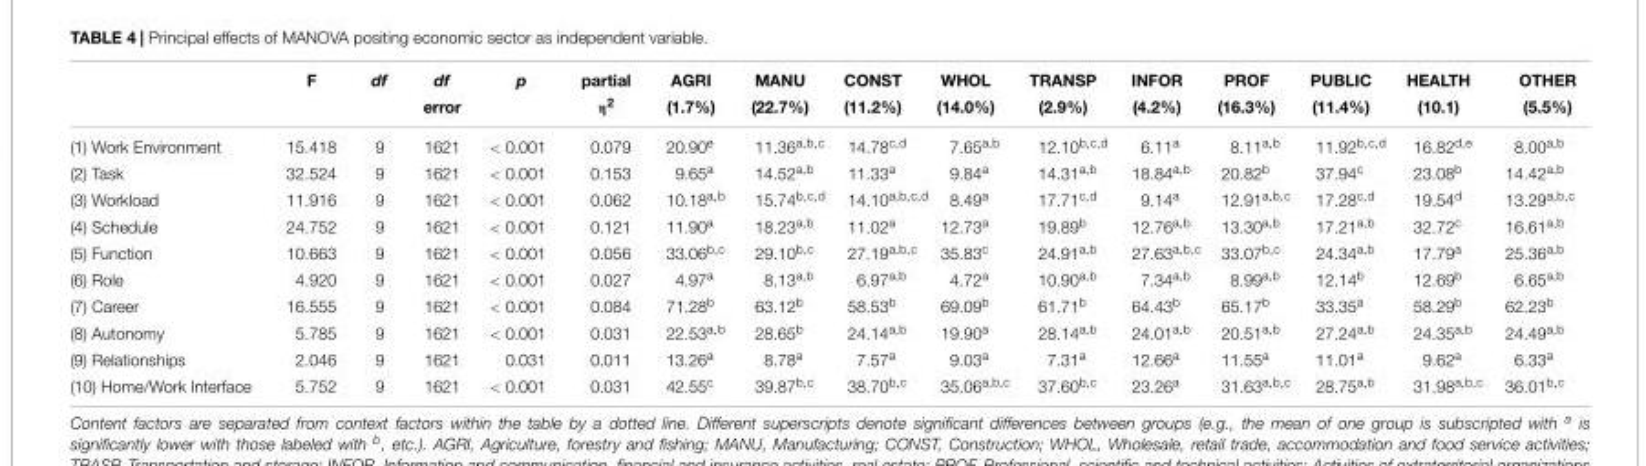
<table><thead><tr><td rowspan="2"></td><td rowspan="2">F</td><td rowspan="2">df</td><td rowspan="2">df error</td><td rowspan="2">p</td><td rowspan="2">partial η<sup>2</sup></td><td rowspan="2">AGRI (1.7%)</td><td rowspan="2">MANU (22.7%)</td><td rowspan="2">CONST (11.2%)</td><td rowspan="2">WHOL (14.0%)</td><td rowspan="2">TRANSP (2.9%)</td><td rowspan="2">INFOR (4.2%)</td><td rowspan="2">PROF (16.3%)</td><td rowspan="2">PUBLIC (11.4%)</td><td rowspan="2">HEALTH (10.1)</td><td rowspan="2">OTHER (5.5%)</td></tr><tr></tr></thead><tbody><tr><td>(1) Work Environment</td><td>15.418</td><td>9</td><td>1621</td><td>&lt; 0.001</td><td>0.079</td><td>20.90<sup>e</sup></td><td>11.36<sup>a,b,c</sup></td><td>14.78<sup>c,d</sup></td><td>7.65<sup>a,b</sup></td><td>12.10<sup>b,c,d</sup></td><td>6.11<sup>a</sup></td><td>8.11<sup>a,b</sup></td><td>11.92<sup>b,c,d</sup></td><td>16.82<sup>d,e</sup></td><td>8.00<sup>a,b</sup></td></tr><tr><td>(2) Task</td><td>32.524</td><td>9</td><td>1621</td><td>&lt; 0.001</td><td>0.153</td><td>9.65<sup>a</sup></td><td>14.52<sup>a,b</sup></td><td>11.33<sup>a</sup></td><td>9.84<sup>a</sup></td><td>14.31<sup>a,b</sup></td><td>18.84<sup>a,b</sup></td><td>20.82<sup>b</sup></td><td>37.94<sup>c</sup></td><td>23.08<sup>b</sup></td><td>14.42<sup>a,b</sup></td></tr><tr><td>(3) Workload</td><td>11.916</td><td>9</td><td>1621</td><td>&lt; 0.001</td><td>0.062</td><td>10.18<sup>a,b</sup></td><td>15.74<sup>b,c,d</sup></td><td>14.10<sup>a,b,c,d</sup></td><td>8.49<sup>a</sup></td><td>17.71<sup>c,d</sup></td><td>9.14<sup>a</sup></td><td>12.91<sup>a,b,c</sup></td><td>17.28<sup>c,d</sup></td><td>19.54<sup>d</sup></td><td>13.29<sup>a,b,c</sup></td></tr><tr><td>(4) Schedule</td><td>24.752</td><td>9</td><td>1621</td><td>&lt; 0.001</td><td>0.121</td><td>11.90<sup>a</sup></td><td>18.23<sup>a,b</sup></td><td>11.02<sup>a</sup></td><td>12.73<sup>a</sup></td><td>19.89<sup>b</sup></td><td>12.76<sup>a,b</sup></td><td>13.30<sup>a,b</sup></td><td>17.21<sup>a,b</sup></td><td>32.72<sup>c</sup></td><td>16.61<sup>a,b</sup></td></tr><tr><td>(5) Function</td><td>10.663</td><td>9</td><td>1621</td><td>&lt; 0.001</td><td>0.056</td><td>33.06<sup>b,c</sup></td><td>29.10<sup>b,c</sup></td><td>27.19<sup>a,b,c</sup></td><td>35.83<sup>c</sup></td><td>24.91<sup>a,b</sup></td><td>27.63<sup>a,b,c</sup></td><td>33.07<sup>b,c</sup></td><td>24.34<sup>a,b</sup></td><td>17.79<sup>a</sup></td><td>25.36<sup>a,b</sup></td></tr><tr><td>(6) Role</td><td>4.920</td><td>9</td><td>1621</td><td>&lt; 0.001</td><td>0.027</td><td>4.97<sup>a</sup></td><td>8.13<sup>a,b</sup></td><td>6.97<sup>a,b</sup></td><td>4.72<sup>a</sup></td><td>10.90<sup>a,b</sup></td><td>7.34<sup>a,b</sup></td><td>8.99<sup>a,b</sup></td><td>12.14<sup>b</sup></td><td>12.69<sup>b</sup></td><td>6.65<sup>a,b</sup></td></tr><tr><td>(7) Career</td><td>16.555</td><td>9</td><td>1621</td><td>&lt; 0.001</td><td>0.084</td><td>71.28<sup>b</sup></td><td>63.12<sup>b</sup></td><td>58.53<sup>b</sup></td><td>69.09<sup>b</sup></td><td>61.71<sup>b</sup></td><td>64.43<sup>b</sup></td><td>65.17<sup>b</sup></td><td>33.35<sup>a</sup></td><td>58.29<sup>b</sup></td><td>62.23<sup>b</sup></td></tr><tr><td>(8) Autonomy</td><td>5.785</td><td>9</td><td>1621</td><td>&lt; 0.001</td><td>0.031</td><td>22.53<sup>a,b</sup></td><td>28.65<sup>b</sup></td><td>24.14<sup>a,b</sup></td><td>19.90<sup>a</sup></td><td>28.14<sup>a,b</sup></td><td>24.01<sup>a,b</sup></td><td>20.51<sup>a,b</sup></td><td>27.24<sup>a,b</sup></td><td>24.35<sup>a,b</sup></td><td>24.49<sup>a,b</sup></td></tr><tr><td>(9) Relationships</td><td>2.046</td><td>9</td><td>1621</td><td>0.031</td><td>0.011</td><td>13.26<sup>a</sup></td><td>8.78<sup>a</sup></td><td>7.57<sup>a</sup></td><td>9.03<sup>a</sup></td><td>7.31<sup>a</sup></td><td>12.66<sup>a</sup></td><td>11.55<sup>a</sup></td><td>11.01<sup>a</sup></td><td>9.62<sup>a</sup></td><td>6.33<sup>a</sup></td></tr><tr><td>(10) Home/Work Interface</td><td>5.752</td><td>9</td><td>1621</td><td>&lt; 0.001</td><td>0.031</td><td>42.55<sup>c</sup></td><td>39.87<sup>b,c</sup></td><td>38.70<sup>b,c</sup></td><td>35.06<sup>a,b,c</sup></td><td>37.60<sup>b,c</sup></td><td>23.26<sup>a</sup></td><td>31.63<sup>a,b,c</sup></td><td>28.75<sup>a,b</sup></td><td>31.98<sup>a,b,c</sup></td><td>36.01<sup>b,c</sup></td></tr></tbody></table>